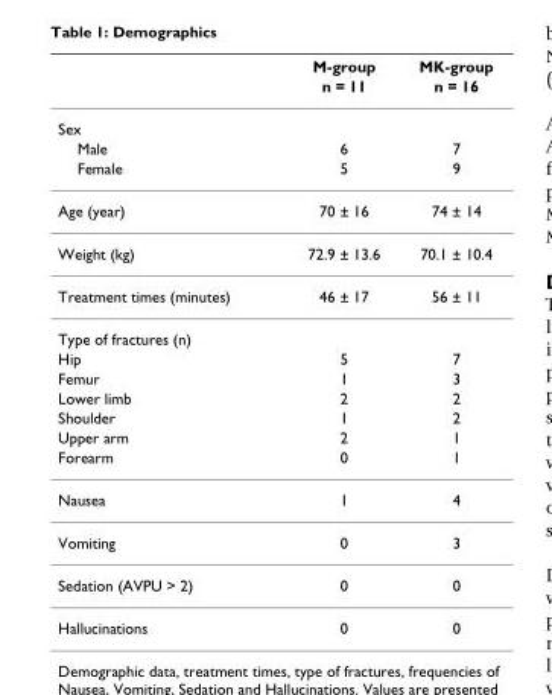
<table><thead><tr><td rowspan="2"></td><td rowspan="2">M-group n = 11</td><td rowspan="2">MK-group n = 16</td></tr><tr></tr></thead><tbody><tr><td colspan="3">Sex</td></tr><tr><td>Male</td><td>6</td><td>7</td></tr><tr><td>Female</td><td>5</td><td>9</td></tr><tr><td>Age (year)</td><td>70 ± 16</td><td>74 ± 14</td></tr><tr><td>Weight (kg)</td><td>72.9 ± 13.6</td><td>70.1 ± 10.4</td></tr><tr><td>Treatment times (minutes)</td><td>46 ± 17</td><td>56 ± 11</td></tr><tr><td colspan="3">Type of fractures (n)</td></tr><tr><td>Hip</td><td>5</td><td>7</td></tr><tr><td>Femur</td><td>1</td><td>3</td></tr><tr><td>Lower limb</td><td>2</td><td>2</td></tr><tr><td>Shoulder</td><td>1</td><td>2</td></tr><tr><td>Upper arm</td><td>2</td><td>1</td></tr><tr><td>Forearm</td><td>0</td><td>1</td></tr><tr><td>Nausea</td><td>1</td><td>4</td></tr><tr><td>Vomiting</td><td>0</td><td>3</td></tr><tr><td>Sedation (AVPU &gt; 2)</td><td>0</td><td>0</td></tr><tr><td>Hallucinations</td><td>0</td><td>0</td></tr></tbody></table>